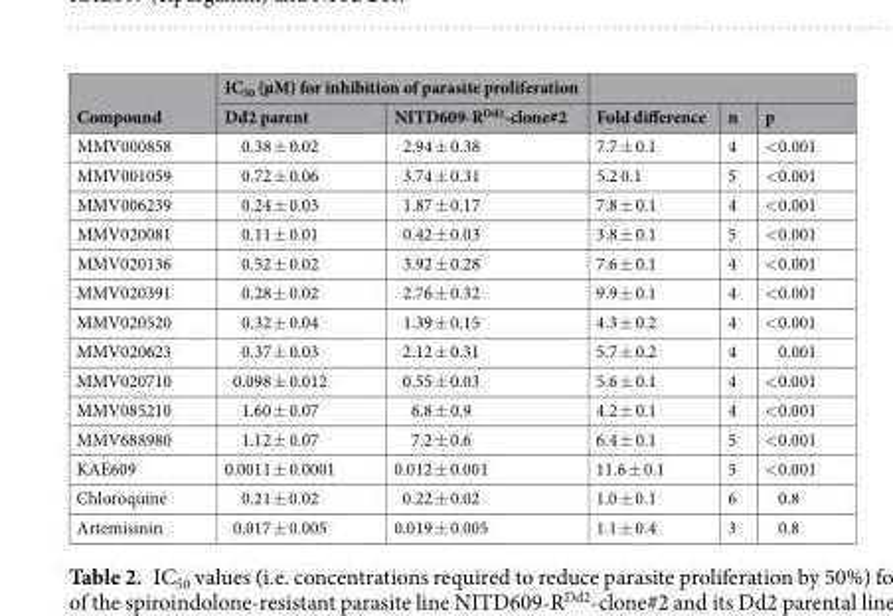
<table><thead><tr><td rowspan="2">Compound</td><td colspan="2">IC<sub>50</sub> (µM) for inhibition of parasite proliferation</td><td rowspan="2">Fold difference</td><td rowspan="2">n</td><td rowspan="2">p</td></tr><tr><td>Dd2 parent</td><td>NITD609-R<sup>Dd2</sup>-clone#2</td></tr></thead><tbody><tr><td>MMV000858</td><td>0.38 ± 0.02</td><td>2.94 ± 0.38</td><td>7.7 ± 0.1</td><td>4</td><td>&lt;0.001</td></tr><tr><td>MMV001059</td><td>0.72 ± 0.06</td><td>3.74 ± 0.31</td><td>5.2 0.1</td><td>5</td><td>&lt;0.001</td></tr><tr><td>MMV006239</td><td>0.24 ± 0.03</td><td>1.87 ± 0.17</td><td>7.8 ± 0.1</td><td>4</td><td>&lt;0.001</td></tr><tr><td>MMV020081</td><td>0.11 ± 0.01</td><td>0.42 ± 0.03</td><td>3.8 ± 0.1</td><td>5</td><td>&lt;0.001</td></tr><tr><td>MMV020136</td><td>0.52 ± 0.02</td><td>3.92 ± 0.28</td><td>7.6 ± 0.1</td><td>4</td><td>&lt;0.001</td></tr><tr><td>MMV020391</td><td>0.28 ± 0.02</td><td>2.76 ± 0.32</td><td>9.9 ± 0.1</td><td>4</td><td>&lt;0.001</td></tr><tr><td>MMV020520</td><td>0.32 ± 0.04</td><td>1.39 ± 0.15</td><td>4.3 ± 0.2</td><td>4</td><td>&lt;0.001</td></tr><tr><td>MMV020623</td><td>0.37 ± 0.03</td><td>2.12 ± 0.31</td><td>5.7 ± 0.2</td><td>4</td><td>0.001</td></tr><tr><td>MMV020710</td><td>0.098 ± 0.012</td><td>0.55 ± 0.03</td><td>5.6 ± 0.1</td><td>4</td><td>&lt;0.001</td></tr><tr><td>MMV085210</td><td>1.60 ± 0.07</td><td>6.8 ± 0.9</td><td>4.2 ± 0.1</td><td>4</td><td>&lt;0.001</td></tr><tr><td>MMV688980</td><td>1.12 ± 0.07</td><td>7.2 ± 0.6</td><td>6.4 ± 0.1</td><td>5</td><td>&lt;0.001</td></tr><tr><td>KAE609</td><td>0.0011 ± 0.0001</td><td>0.012 ± 0.001</td><td>11.6 ± 0.1</td><td>5</td><td>&lt;0.001</td></tr><tr><td>Chloroquine</td><td>0.21 ± 0.02</td><td>0.22 ± 0.02</td><td>1.0 ± 0.1</td><td>6</td><td>0.8</td></tr><tr><td>Artemisinin</td><td>0.017 ± 0.005</td><td>0.019 ± 0.005</td><td>1.1 ± 0.4</td><td>3</td><td>0.8</td></tr></tbody></table>